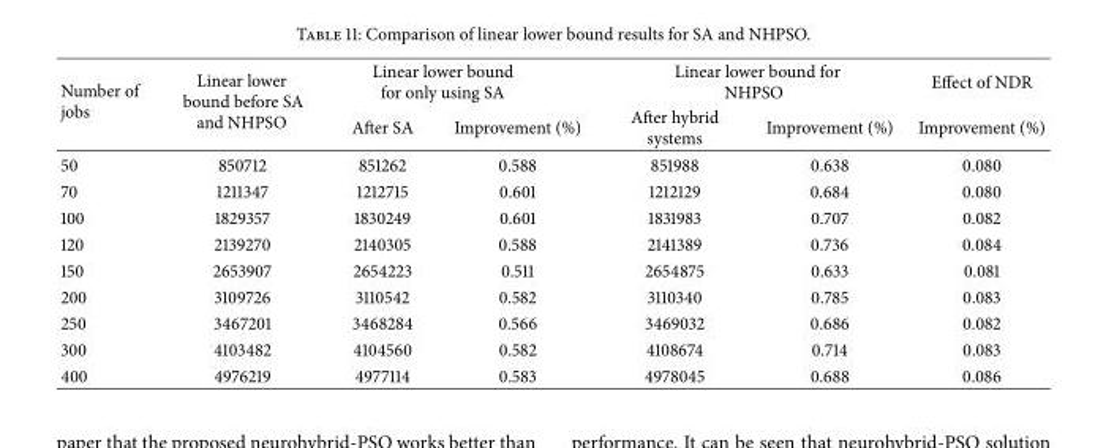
<table><thead><tr><td rowspan="2">Number of jobs</td><td rowspan="2">Linear lower bound before SA and NHPSO</td><td colspan="2">Linear lower bound for only using SA</td><td colspan="2">Linear lower bound for NHPSO</td><td rowspan="2">Effect of NDR Improvement (%)</td></tr><tr><td>After SA</td><td>Improvement (%)</td><td>After hybrid systems</td><td>Improvement (%)</td></tr></thead><tbody><tr><td>50</td><td>850712</td><td>851262</td><td>0.588</td><td>851988</td><td>0.638</td><td>0.080</td></tr><tr><td>70</td><td>1211347</td><td>1212715</td><td>0.601</td><td>1212129</td><td>0.684</td><td>0.080</td></tr><tr><td>100</td><td>1829357</td><td>1830249</td><td>0.601</td><td>1831983</td><td>0.707</td><td>0.082</td></tr><tr><td>120</td><td>2139270</td><td>2140305</td><td>0.588</td><td>2141389</td><td>0.736</td><td>0.084</td></tr><tr><td>150</td><td>2653907</td><td>2654223</td><td>0.511</td><td>2654875</td><td>0.633</td><td>0.081</td></tr><tr><td>200</td><td>3109726</td><td>3110542</td><td>0.582</td><td>3110340</td><td>0.785</td><td>0.083</td></tr><tr><td>250</td><td>3467201</td><td>3468284</td><td>0.566</td><td>3469032</td><td>0.686</td><td>0.082</td></tr><tr><td>300</td><td>4103482</td><td>4104560</td><td>0.582</td><td>4108674</td><td>0.714</td><td>0.083</td></tr><tr><td>400</td><td>4976219</td><td>4977114</td><td>0.583</td><td>4978045</td><td>0.688</td><td>0.086</td></tr></tbody></table>